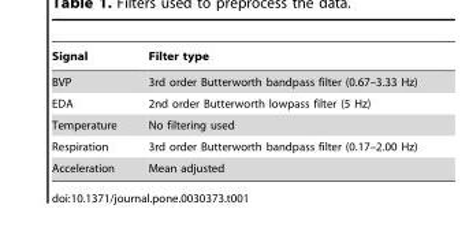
<table><thead><tr><td>Signal</td><td>Filter type</td></tr></thead><tbody><tr><td>BVP</td><td>3rd order Butterworth bandpass filter (0.67–3.33 Hz)</td></tr><tr><td>EDA</td><td>2nd order Butterworth lowpass filter (5 Hz)</td></tr><tr><td>Temperature</td><td>No filtering used</td></tr><tr><td>Respiration</td><td>3rd order Butterworth bandpass filter (0.17–2.00 Hz)</td></tr><tr><td>Acceleration</td><td>Mean adjusted</td></tr></tbody></table>